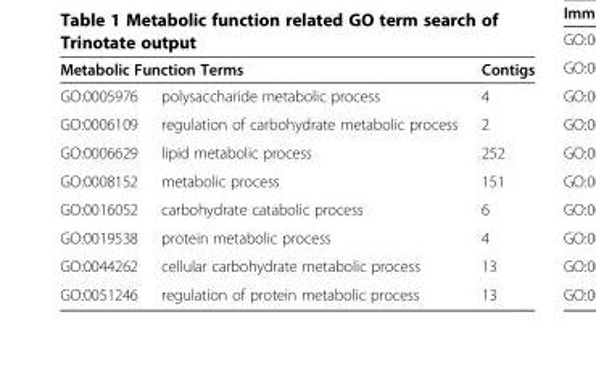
<table><thead><tr><td colspan="2">Metabolic Function Terms</td><td rowspan="2">Contigs 4</td></tr><tr><td>GO:0005976</td><td>polysaccharide metabolic process</td></tr></thead><tbody><tr><td>GO:0006109</td><td>regulation of carbohydrate metabolic process</td><td>2</td></tr><tr><td>GO:0006629</td><td>lipid metabolic process</td><td>252</td></tr><tr><td>GO:0008152</td><td>metabolic process</td><td>151</td></tr><tr><td>GO:0016052</td><td>carbohydrate catabolic process</td><td>6</td></tr><tr><td>GO:0019538</td><td>protein metabolic process</td><td>4</td></tr><tr><td>GO:0044262</td><td>cellular carbohydrate metabolic process</td><td>13</td></tr><tr><td>GO:0051246</td><td>regulation of protein metabolic process</td><td>13</td></tr></tbody></table>